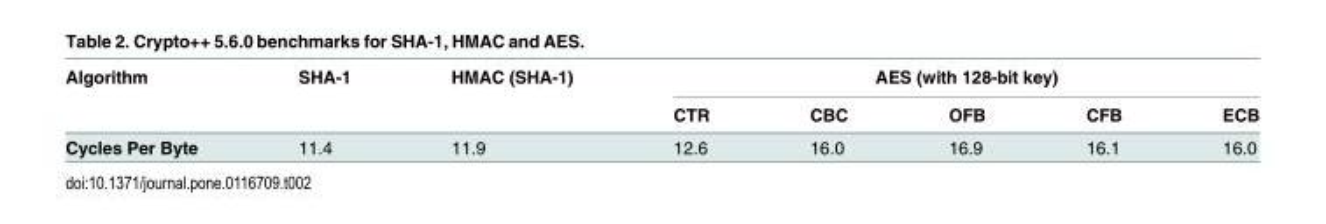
<table><thead><tr><td rowspan="2">Algorithm</td><td rowspan="2">SHA-1</td><td rowspan="2">HMAC (SHA-1)</td><td colspan="5">AES (with 128-bit key)</td></tr><tr><td>CTR</td><td>CBC</td><td>OFB</td><td>CFB</td><td>ECB</td></tr></thead><tbody><tr><td>Cycles Per Byte</td><td>11.4</td><td>11.9</td><td>12.6</td><td>16.0</td><td>16.9</td><td>16.1</td><td>16.0</td></tr></tbody></table>